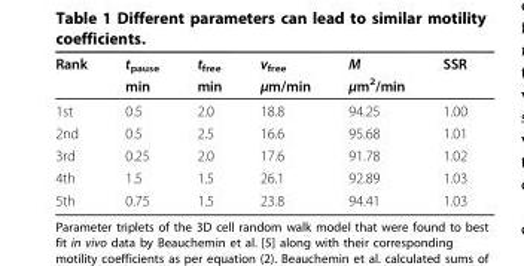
<table><tbody><tr><td rowspan="2">Rank</td><td>t<sub>pause</sub></td><td>t<sub>free</sub></td><td>v<sub>free</sub></td><td>M</td><td>SSR</td></tr><tr><td>min</td><td>min</td><td>μm/min</td><td>μm<sup>2</sup>/min</td><td></td></tr><tr><td>1st</td><td>0.5</td><td>2.0</td><td>18.8</td><td>94.25</td><td>1.00</td></tr><tr><td>2nd</td><td>0.5</td><td>2.5</td><td>16.6</td><td>95.68</td><td>1.01</td></tr><tr><td>3rd</td><td>0.25</td><td>2.0</td><td>17.6</td><td>91.78</td><td>1.02</td></tr><tr><td>4th</td><td>1.5</td><td>1.5</td><td>26.1</td><td>92.89</td><td>1.03</td></tr><tr><td>5th</td><td>0.75</td><td>1.5</td><td>23.8</td><td>94.41</td><td>1.03</td></tr></tbody></table>